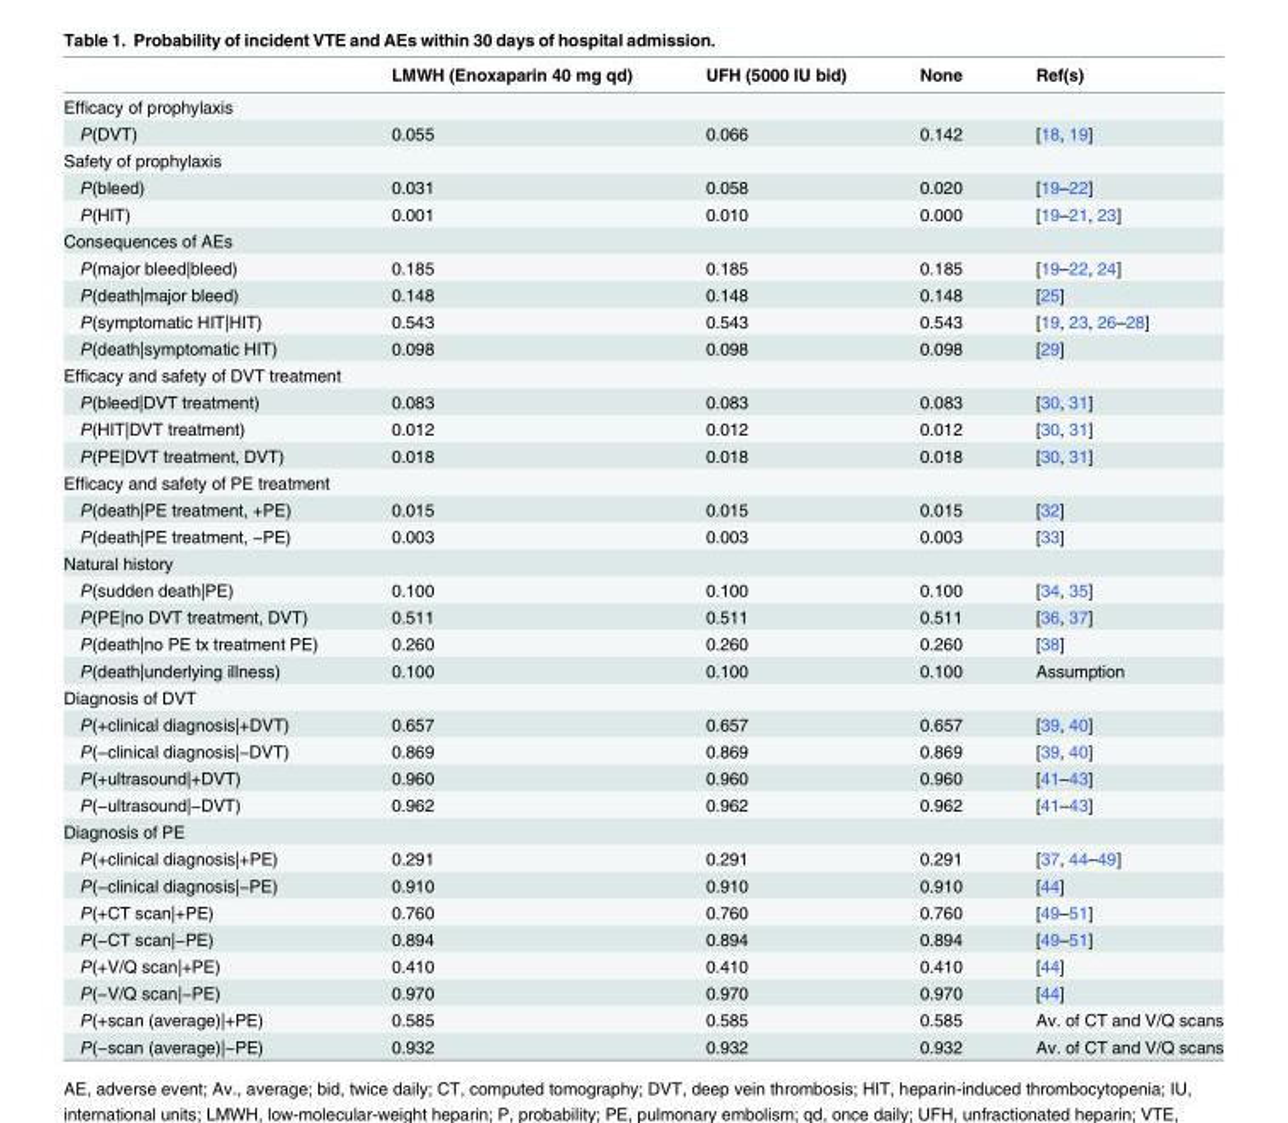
<table><thead><tr><td></td><td>LMWH (Enoxaparin 40 mg qd)</td><td>UFH (5000 IU bid)</td><td>None</td><td>Ref(s)</td></tr></thead><tbody><tr><td colspan="5">Efficacy of prophylaxis</td></tr><tr><td>P(DVT)</td><td>0.055</td><td>0.066</td><td>0.142</td><td>[18, 19]</td></tr><tr><td colspan="5">Safety of prophylaxis</td></tr><tr><td>P(bleed)</td><td>0.031</td><td>0.058</td><td>0.020</td><td>[19–22]</td></tr><tr><td>P(HIT)</td><td>0.001</td><td>0.010</td><td>0.000</td><td>[19–21, 23]</td></tr><tr><td colspan="5">Consequences of AEs</td></tr><tr><td>P(major bleed|bleed)</td><td>0.185</td><td>0.185</td><td>0.185</td><td>[19–22, 24]</td></tr><tr><td>P(death|major bleed)</td><td>0.148</td><td>0.148</td><td>0.148</td><td>[25]</td></tr><tr><td>P(symptomatic HIT|HIT)</td><td>0.543</td><td>0.543</td><td>0.543</td><td>[19, 23, 26–28]</td></tr><tr><td>P(death|symptomatic HIT)</td><td>0.098</td><td>0.098</td><td>0.098</td><td>[29]</td></tr><tr><td colspan="5">Efficacy and safety of DVT treatment</td></tr><tr><td>P(bleed|DVT treatment)</td><td>0.083</td><td>0.083</td><td>0.083</td><td>[30, 31]</td></tr><tr><td>P(HIT|DVT treatment)</td><td>0.012</td><td>0.012</td><td>0.012</td><td>[30, 31]</td></tr><tr><td>P(PE|DVT treatment, DVT)</td><td>0.018</td><td>0.018</td><td>0.018</td><td>[30, 31]</td></tr><tr><td colspan="5">Efficacy and safety of PE treatment</td></tr><tr><td>P(death|PE treatment, +PE)</td><td>0.015</td><td>0.015</td><td>0.015</td><td>[32]</td></tr><tr><td>P(death|PE treatment, −PE)</td><td>0.003</td><td>0.003</td><td>0.003</td><td>[33]</td></tr><tr><td colspan="5">Natural history</td></tr><tr><td>P(sudden death|PE)</td><td>0.100</td><td>0.100</td><td>0.100</td><td>[34, 35]</td></tr><tr><td>P(PE|no DVT treatment, DVT)</td><td>0.511</td><td>0.511</td><td>0.511</td><td>[36, 37]</td></tr><tr><td>P(death|no PE tx treatment PE)</td><td>0.260</td><td>0.260</td><td>0.260</td><td>[38]</td></tr><tr><td>P(death|underlying illness)</td><td>0.100</td><td>0.100</td><td>0.100</td><td>Assumption</td></tr><tr><td colspan="5">Diagnosis of DVT</td></tr><tr><td>P(+clinical diagnosis|+DVT)</td><td>0.657</td><td>0.657</td><td>0.657</td><td>[39, 40]</td></tr><tr><td>P(−clinical diagnosis|−DVT)</td><td>0.869</td><td>0.869</td><td>0.869</td><td>[39, 40]</td></tr><tr><td>P(+ultrasound|+DVT)</td><td>0.960</td><td>0.960</td><td>0.960</td><td>[41–43]</td></tr><tr><td>P(−ultrasound|−DVT)</td><td>0.962</td><td>0.962</td><td>0.962</td><td>[41–43]</td></tr><tr><td colspan="5">Diagnosis of PE</td></tr><tr><td>P(+clinical diagnosis|+PE)</td><td>0.291</td><td>0.291</td><td>0.291</td><td>[37, 44–49]</td></tr><tr><td>P(−clinical diagnosis|−PE)</td><td>0.910</td><td>0.910</td><td>0.910</td><td>[44]</td></tr><tr><td>P(+CT scan|+PE)</td><td>0.760</td><td>0.760</td><td>0.760</td><td>[49–51]</td></tr><tr><td>P(−CT scan|−PE)</td><td>0.894</td><td>0.894</td><td>0.894</td><td>[49–51]</td></tr><tr><td>P(+V/Q scan|+PE)</td><td>0.410</td><td>0.410</td><td>0.410</td><td>[44]</td></tr><tr><td>P(−V/Q scan|−PE)</td><td>0.970</td><td>0.970</td><td>0.970</td><td>[44]</td></tr><tr><td>P(+scan (average)|+PE)</td><td>0.585</td><td>0.585</td><td>0.585</td><td>Av. of CT and V/Q scans</td></tr><tr><td>P(−scan (average)|−PE)</td><td>0.932</td><td>0.932</td><td>0.932</td><td>Av. of CT and V/Q scans</td></tr></tbody></table>